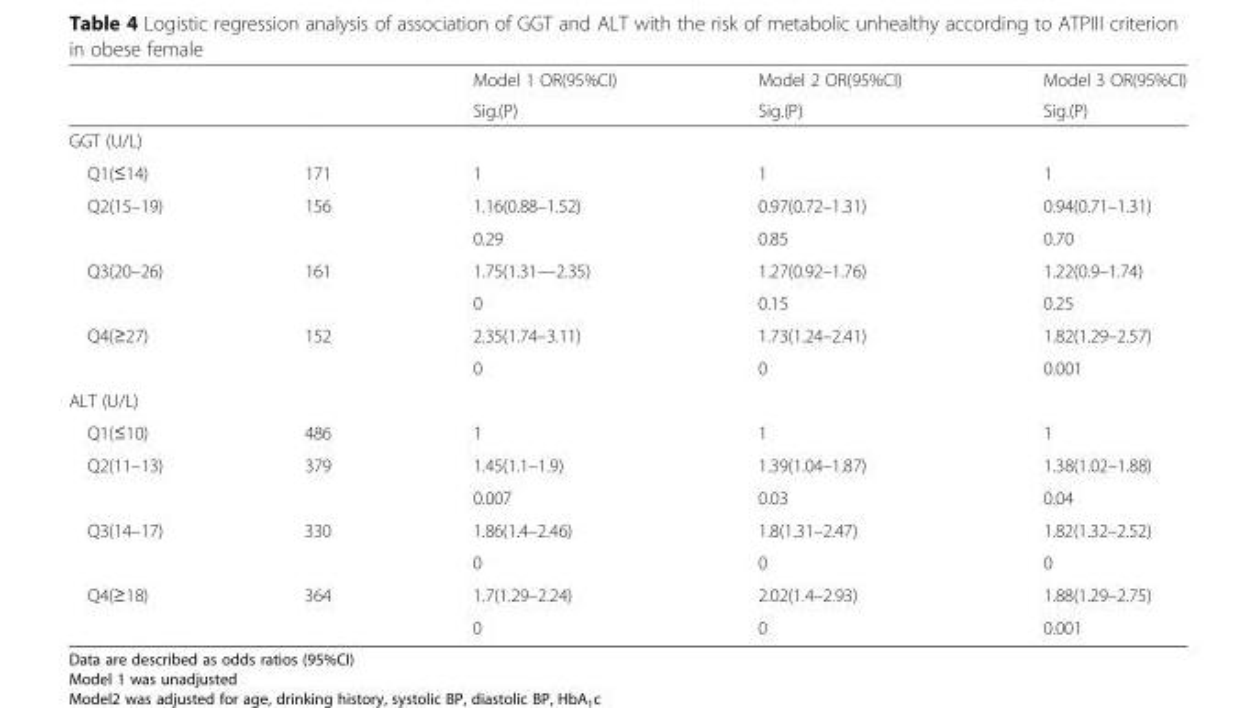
<table><thead><tr><td rowspan="2"></td><td rowspan="2"></td><td rowspan="2">Model 1 OR(95%CI) Sig.(P)</td><td rowspan="2">Model 2 OR(95%CI) Sig.(P)</td><td rowspan="2">Model 3 OR(95%CI) Sig.(P)</td></tr><tr></tr></thead><tbody><tr><td colspan="5">GGT (U/L)</td></tr><tr><td>Q1(≤14)</td><td>171</td><td>1</td><td>1</td><td>1</td></tr><tr><td rowspan="2">Q2(15–19)</td><td rowspan="2">156</td><td>1.16(0.88–1.52)</td><td>0.97(0.72–1.31)</td><td>0.94(0.71–1.31)</td></tr><tr><td>0.29</td><td>0.85</td><td>0.70</td></tr><tr><td rowspan="2">Q3(20–26)</td><td rowspan="2">161</td><td>1.75(1.31—2.35)</td><td>1.27(0.92–1.76)</td><td>1.22(0.9–1.74)</td></tr><tr><td>0</td><td>0.15</td><td>0.25</td></tr><tr><td rowspan="2">Q4(≥27)</td><td rowspan="2">152</td><td>2.35(1.74–3.11)</td><td>1.73(1.24–2.41)</td><td>1.82(1.29–2.57)</td></tr><tr><td>0</td><td>0</td><td>0.001</td></tr><tr><td colspan="5">ALT (U/L)</td></tr><tr><td>Q1(≤10)</td><td>486</td><td>1</td><td>1</td><td>1</td></tr><tr><td rowspan="2">Q2(11–13)</td><td rowspan="2">379</td><td>1.45(1.1–1.9)</td><td>1.39(1.04–1.87)</td><td>1.38(1.02–1.88)</td></tr><tr><td>0.007</td><td>0.03</td><td>0.04</td></tr><tr><td rowspan="2">Q3(14–17)</td><td rowspan="2">330</td><td>1.86(1.4–2.46)</td><td>1.8(1.31–2.47)</td><td>1.82(1.32–2.52)</td></tr><tr><td>0</td><td>0</td><td>0</td></tr><tr><td rowspan="2">Q4(≥18)</td><td rowspan="2">364</td><td>1.7(1.29–2.24)</td><td>2.02(1.4–2.93)</td><td>1.88(1.29–2.75)</td></tr><tr><td>0</td><td>0</td><td>0.001</td></tr></tbody></table>